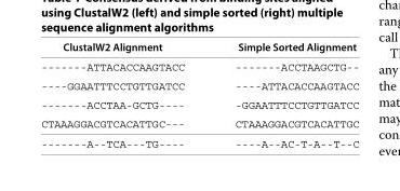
<table><thead><tr><td>ClustalW2 Alignment</td><td>Simple Sorted Alignment</td></tr></thead><tbody><tr><td>-------ATTACACCAAGTACC</td><td>-------ACCTAAGCTG--</td></tr><tr><td>----GGAATTTCCTGTTGATCC</td><td>----ATTACACCAAGTACC</td></tr><tr><td>-------ACCTAA-GCTG----</td><td>-GGAATTTCCTGTTGATCC</td></tr><tr><td>CTAAAGGACGTCACATTGC---</td><td>CTAAAGGACGTCACATTGC</td></tr><tr><td>-------A--TCA---TG----</td><td>----A--AC-T-A--T--C</td></tr></tbody></table>